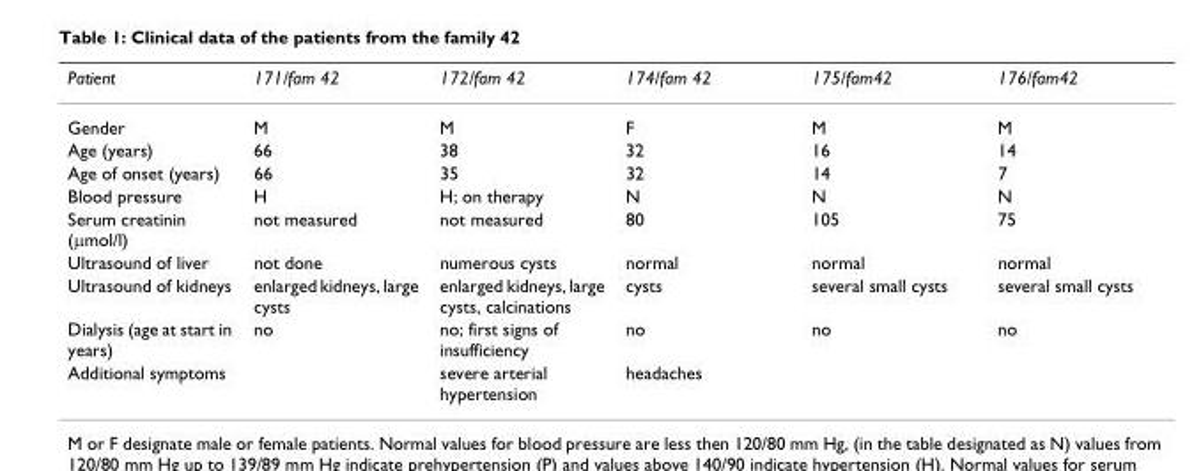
<table><thead><tr><td>Patient</td><td>171/fam 42</td><td>172/fam 42</td><td>174/fam 42</td><td>175/fam42</td><td>176/fam42</td></tr></thead><tbody><tr><td>Gender</td><td>M</td><td>M</td><td>F</td><td>M</td><td>M</td></tr><tr><td>Age (years)</td><td>66</td><td>38</td><td>32</td><td>16</td><td>14</td></tr><tr><td>Age of onset (years)</td><td>66</td><td>35</td><td>32</td><td>14</td><td>7</td></tr><tr><td>Blood pressure</td><td>H</td><td>H; on therapy</td><td>N</td><td>N</td><td>N</td></tr><tr><td>Serum creatinin (µmol/l)</td><td>not measured</td><td>not measured</td><td>80</td><td>105</td><td>75</td></tr><tr><td>Ultrasound of liver</td><td>not done</td><td>numerous cysts</td><td>normal</td><td>normal</td><td>normal</td></tr><tr><td>Ultrasound of kidneys</td><td>enlarged kidneys, large cysts</td><td>enlarged kidneys, large cysts, calcinations</td><td>cysts</td><td>several small cysts</td><td>several small cysts</td></tr><tr><td>Dialysis (age at start in years)</td><td>no</td><td>no; first signs of insufficiency</td><td>no</td><td>no</td><td>no</td></tr><tr><td>Additional symptoms</td><td></td><td>severe arterial hypertension</td><td>headaches</td><td></td><td></td></tr></tbody></table>